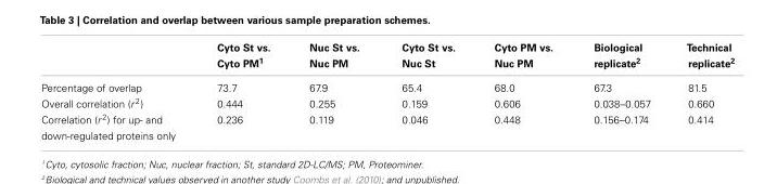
<table><thead><tr><td></td><td>Cyto St vs. Cyto PM<sup>1</sup></td><td>Nuc St vs. Nuc PM</td><td>Cyto St vs. Nuc St</td><td>Cyto PM vs. Nuc PM</td><td>Biological replicate<sup>2</sup></td><td>Technical replicate<sup>2</sup></td></tr></thead><tbody><tr><td>Percentage of overlap</td><td>73.7</td><td>67.9</td><td>65.4</td><td>68.0</td><td>67.3</td><td>81.5</td></tr><tr><td>Overall correlation (r <sup>2</sup>)</td><td>0.444</td><td>0.255</td><td>0.159</td><td>0.606</td><td>0.038–0.057</td><td>0.660</td></tr><tr><td>Correlation (r <sup>2</sup>) for up- and down-regulated proteins only</td><td>0.236</td><td>0.119</td><td>0.046</td><td>0.448</td><td>0.156–0.174</td><td>0.414</td></tr></tbody></table>